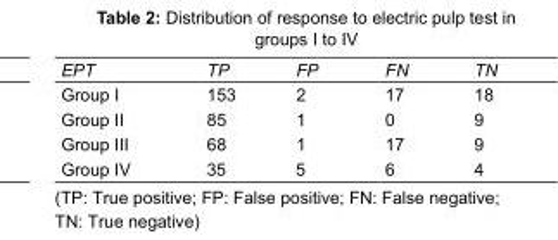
<table><tbody><tr><td>EPT</td><td>TP</td><td>FP</td><td>FN</td><td>TN</td></tr><tr><td>Group I</td><td>153</td><td>2</td><td>17</td><td>18</td></tr><tr><td>Group II</td><td>85</td><td>1</td><td>0</td><td>9</td></tr><tr><td>Group III</td><td>68</td><td>1</td><td>17</td><td>9</td></tr><tr><td>Group IV</td><td>35</td><td>5</td><td>6</td><td>4</td></tr></tbody></table>